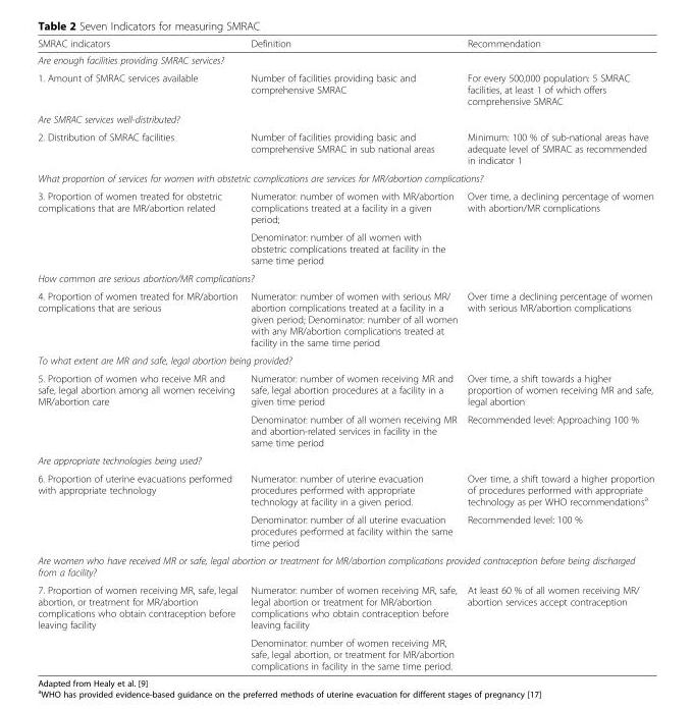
<table><thead><tr><td>SMRAC indicators</td><td>Definition</td><td>Recommendation</td></tr></thead><tbody><tr><td colspan="3">Are enough facilities providing SMRAC services?</td></tr><tr><td>1. Amount of SMRAC services available</td><td>Number of facilities providing basic and comprehensive SMRAC</td><td>For every 500,000 population: 5 SMRAC facilities, at least 1 of which offers comprehensive SMRAC</td></tr><tr><td colspan="3">Are SMRAC services well-distributed?</td></tr><tr><td>2. Distribution of SMRAC facilities</td><td>Number of facilities providing basic and comprehensive SMRAC in sub national areas</td><td>Minimum: 100 % of sub-national areas have adequate level of SMRAC as recommended in indicator 1</td></tr><tr><td colspan="3">What proportion of services for women with obstetric complications are services for MR/abortion complications?</td></tr><tr><td rowspan="2">3. Proportion of women treated for obstetric complications that are MR/abortion related</td><td>Numerator: number of women with MR/abortion complications treated at a facility in a given period;</td><td rowspan="2">Over time, a declining percentage of women with abortion/MR complications</td></tr><tr><td>Denominator: number of all women with obstetric complications treated at facility in the same time period</td></tr><tr><td colspan="3">How common are serious abortion/MR complications?</td></tr><tr><td>4. Proportion of women treated for MR/abortion complications that are serious</td><td>Numerator: number of women with serious MR/ abortion complications treated at a facility in a given period; Denominator: number of all women with any MR/abortion complications treated at facility in the same time period</td><td>Over time a declining percentage of women with serious MR/abortion complications</td></tr><tr><td colspan="3">To what extent are MR and safe, legal abortion being provided?</td></tr><tr><td rowspan="2">5. Proportion of women who receive MR and safe, legal abortion among all women receiving MR/abortion care</td><td>Numerator: number of women receiving MR and safe, legal abortion procedures at a facility in a given time period</td><td>Over time, a shift towards a higher proportion of women receiving MR and safe, legal abortion</td></tr><tr><td>Denominator: number of all women receiving MR and abortion-related services in facility in the same time period</td><td>Recommended level: Approaching 100 %</td></tr><tr><td colspan="3">Are appropriate technologies being used?</td></tr><tr><td rowspan="2">6. Proportion of uterine evacuations performed with appropriate technology</td><td>Numerator: number of uterine evacuation procedures performed with appropriate technology at facility in a given period.</td><td>Over time, a shift toward a higher proportion of procedures performed with appropriate technology as per WHO recommendations<sup>a</sup></td></tr><tr><td>Denominator: number of all uterine evacuation procedures performed at facility within the same time period</td><td>Recommended level: 100 %</td></tr><tr><td colspan="3">Are women who have received MR or safe, legal abortion or treatment for MR/abortion complications provided contraception before being discharged from a facility?</td></tr><tr><td rowspan="2">7. Proportion of women receiving MR, safe, legal abortion, or treatment for MR/abortion complications who obtain contraception before leaving facility</td><td>Numerator: number of women receiving MR, safe, legal abortion or treatment for MR/abortion complications who obtain contraception before leaving facility</td><td rowspan="2">At least 60 % of all women receiving MR/ abortion services accept contraception</td></tr><tr><td>Denominator: number of women receiving MR, safe, legal abortion, or treatment for MR/abortion complications in facility in the same time period.</td></tr></tbody></table>